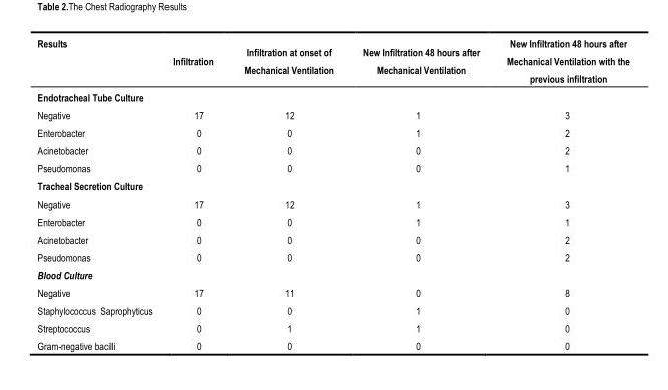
<table><thead><tr><td>Results</td><td>Infiltration</td><td>Infiltration at onset of Mechanical Ventilation</td><td>New Infiltration 48 hours after Mechanical Ventilation</td><td>New Infiltration 48 hours after Mechanical Ventilation with the previous infiltration</td></tr></thead><tbody><tr><td colspan="5">Endotracheal Tube Culture</td></tr><tr><td>Negative</td><td>17</td><td>12</td><td>1</td><td>3</td></tr><tr><td>Enterobacter</td><td>0</td><td>0</td><td>1</td><td>2</td></tr><tr><td>Acinetobacter</td><td>0</td><td>0</td><td>0</td><td>2</td></tr><tr><td>Pseudomonas</td><td>0</td><td>0</td><td>0</td><td>1</td></tr><tr><td colspan="5">Tracheal Secretion Culture</td></tr><tr><td>Negative</td><td>17</td><td>12</td><td>1</td><td>3</td></tr><tr><td>Enterobacter</td><td>0</td><td>0</td><td>1</td><td>1</td></tr><tr><td>Acinetobacter</td><td>0</td><td>0</td><td>0</td><td>2</td></tr><tr><td>Pseudomonas</td><td>0</td><td>0</td><td>0</td><td>2</td></tr><tr><td colspan="5">Blood Culture</td></tr><tr><td>Negative</td><td>17</td><td>11</td><td>0</td><td>8</td></tr><tr><td>Staphylococcus Saprophyticus</td><td>0</td><td>0</td><td>1</td><td>0</td></tr><tr><td>Streptococcus</td><td>0</td><td>1</td><td>1</td><td>0</td></tr><tr><td>Gram-negative bacilli</td><td>0</td><td>0</td><td>0</td><td>0</td></tr></tbody></table>